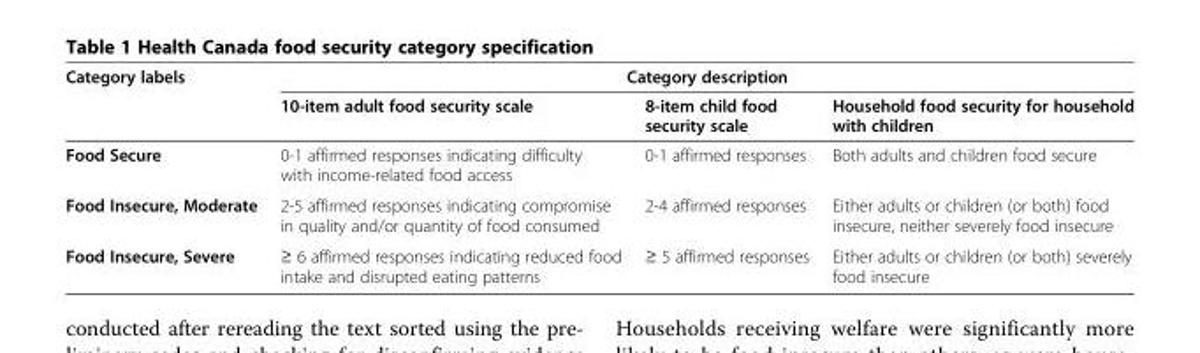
<table><thead><tr><td rowspan="2">Category labels</td><td colspan="3">Category description</td></tr><tr><td>10-item adult food security scale</td><td>8-item child food security scale</td><td>Household food security for household with children</td></tr></thead><tbody><tr><td>Food Secure</td><td>0-1 affirmed responses indicating difficulty with income-related food access</td><td>0-1 affirmed responses</td><td>Both adults and children food secure</td></tr><tr><td>Food Insecure, Moderate</td><td>2-5 affirmed responses indicating compromise in quality and/or quantity of food consumed</td><td>2-4 affirmed responses</td><td>Either adults or children (or both) food insecure, neither severely food insecure</td></tr><tr><td>Food Insecure, Severe</td><td>≥ 6 affirmed responses indicating reduced food intake and disrupted eating patterns</td><td>≥ 5 affirmed responses</td><td>Either adults or children (or both) severely food insecure</td></tr></tbody></table>